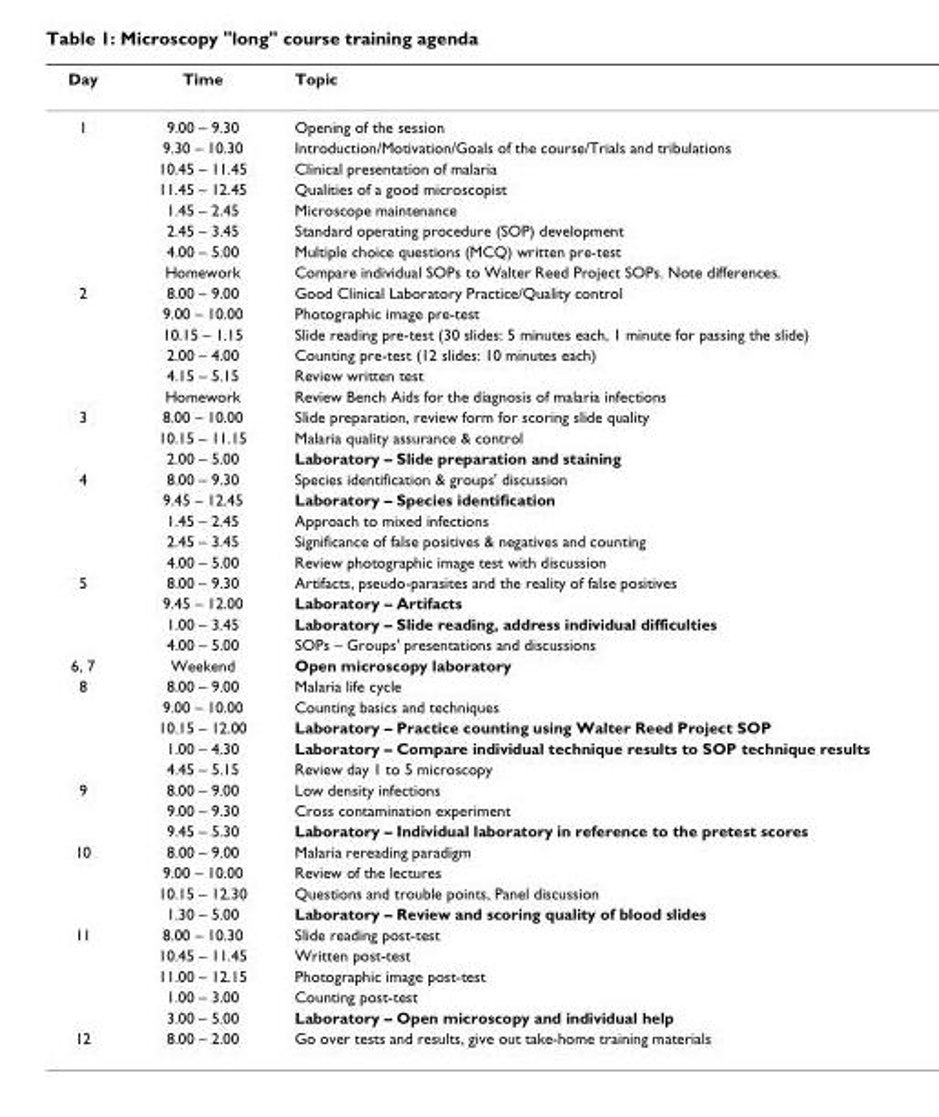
<table><thead><tr><td>Day</td><td>Time</td><td>Topic</td></tr></thead><tbody><tr><td rowspan="8">1</td><td>9.00 – 9.30</td><td>Opening of the session</td></tr><tr><td>9.30 – 10.30</td><td>Introduction/Motivation/Goals of the course/Trials and tribulations</td></tr><tr><td>10.45 – 11.45</td><td>Clinical presentation of malaria</td></tr><tr><td>11.45 – 12.45</td><td>Qualities of a good microscopist</td></tr><tr><td>1.45 – 2.45</td><td>Microscope maintenance</td></tr><tr><td>2.45 – 3.45</td><td>Standard operating procedure (SOP) development</td></tr><tr><td>4.00 – 5.00</td><td>Multiple choice questions (MCQ) written pre-test</td></tr><tr><td>Homework</td><td>Compare individual SOPs to Walter Reed Project SOPs. Note differences.</td></tr><tr><td rowspan="6">2</td><td>8.00 – 9.00</td><td>Good Clinical Laboratory Practice/Quality control</td></tr><tr><td>9.00 – 10.00</td><td>Photographic image pre-test</td></tr><tr><td>10.15 – 1.15</td><td>Slide reading pre-test (30 slides: 5 minutes each, 1 minute for passing the slide)</td></tr><tr><td>2.00 – 4.00</td><td>Counting pre-test (12 slides: 10 minutes each)</td></tr><tr><td>4.15 – 5.15</td><td>Review written test</td></tr><tr><td>Homework</td><td>Review Bench Aids for the diagnosis of malaria infections</td></tr><tr><td rowspan="3">3</td><td>8.00 – 10.00</td><td>Slide preparation, review form for scoring slide quality</td></tr><tr><td>10.15 – 11.15</td><td>Malaria quality assurance &amp; control</td></tr><tr><td>2.00 – 5.00</td><td>Laboratory – Slide preparation and staining</td></tr><tr><td rowspan="5">4</td><td>8.00 – 9.30</td><td>Species identification &amp; groups&#x27; discussion</td></tr><tr><td>9.45 – 12.45</td><td>Laboratory – Species identification</td></tr><tr><td>1.45 – 2.45</td><td>Approach to mixed infections</td></tr><tr><td>2.45 – 3.45</td><td>Significance of false positives &amp; negatives and counting</td></tr><tr><td>4.00 – 5.00</td><td>Review photographic image test with discussion</td></tr><tr><td rowspan="4">5</td><td>8.00 – 9.30</td><td>Artifacts, pseudo-parasites and the reality of false positives</td></tr><tr><td>9.45 – 12.00</td><td>Laboratory – Artifacts</td></tr><tr><td>1.00 – 3.45</td><td>Laboratory – Slide reading, address individual difficulties</td></tr><tr><td>4.00 – 5.00</td><td>SOPs – Groups&#x27; presentations and discussions</td></tr><tr><td>6, 7</td><td>Weekend</td><td>Open microscopy laboratory</td></tr><tr><td rowspan="5">8</td><td>8.00 – 9.00</td><td>Malaria life cycle</td></tr><tr><td>9.00 – 10.00</td><td>Counting basics and techniques</td></tr><tr><td>10.15 – 12.00</td><td>Laboratory – Practice counting using Walter Reed Project SOP</td></tr><tr><td>1.00 – 4.30</td><td>Laboratory – Compare individual technique results to SOP technique results</td></tr><tr><td>4.45 – 5.15</td><td>Review day 1 to 5 microscopy</td></tr><tr><td rowspan="3">9</td><td>8.00 – 9.00</td><td>Low density infections</td></tr><tr><td>9.00 – 9.30</td><td>Cross contamination experiment</td></tr><tr><td>9.45 – 5.30</td><td>Laboratory – Individual laboratory in reference to the pretest scores</td></tr><tr><td rowspan="4">10</td><td>8.00 – 9.00</td><td>Malaria rereading paradigm</td></tr><tr><td>9.00 – 10.00</td><td>Review of the lectures</td></tr><tr><td>10.15 – 12.30</td><td>Questions and trouble points, Panel discussion</td></tr><tr><td>1.30 – 5.00</td><td>Laboratory – Review and scoring quality of blood slides</td></tr><tr><td rowspan="5">11</td><td>8.00 – 10.30</td><td>Slide reading post-test</td></tr><tr><td>10.45 – 11.45</td><td>Written post-test</td></tr><tr><td>11.00 – 12.15</td><td>Photographic image post-test</td></tr><tr><td>1.00 – 3.00</td><td>Counting post-test</td></tr><tr><td>3.00 – 5.00</td><td>Laboratory – Open microscopy and individual help</td></tr><tr><td>12</td><td>8.00 – 2.00</td><td>Go over tests and results, give out take-home training materials</td></tr></tbody></table>